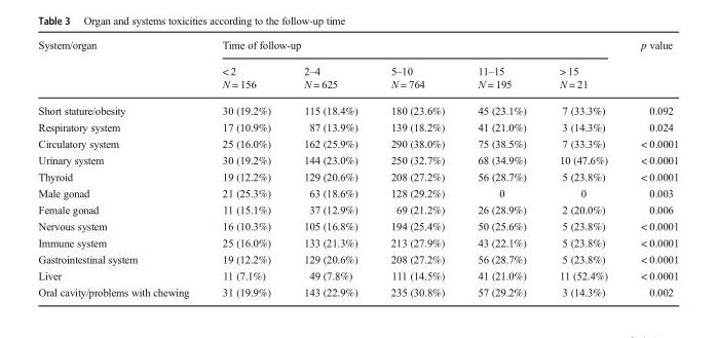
<table><thead><tr><td rowspan="2">System/organ</td><td colspan="5">Time of follow-up</td><td rowspan="2">p value</td></tr><tr><td>&lt; 2 N = 156</td><td>2–4 N = 625</td><td>5–10 N = 764</td><td>11–15 N = 195</td><td>&gt; 15 N = 21</td></tr></thead><tbody><tr><td>Short stature/obesity</td><td>30 (19.2%)</td><td>115 (18.4%)</td><td>180 (23.6%)</td><td>45 (23.1%)</td><td>7 (33.3%)</td><td>0.092</td></tr><tr><td>Respiratory system</td><td>17 (10.9%)</td><td>87 (13.9%)</td><td>139 (18.2%)</td><td>41 (21.0%)</td><td>3 (14.3%)</td><td>0.024</td></tr><tr><td>Circulatory system</td><td>25 (16.0%)</td><td>162 (25.9%)</td><td>290 (38.0%)</td><td>75 (38.5%)</td><td>7 (33.3%)</td><td>&lt; 0.0001</td></tr><tr><td>Urinary system</td><td>30 (19.2%)</td><td>144 (23.0%)</td><td>250 (32.7%)</td><td>68 (34.9%)</td><td>10 (47.6%)</td><td>&lt; 0.0001</td></tr><tr><td>Thyroid</td><td>19 (12.2%)</td><td>129 (20.6%)</td><td>208 (27.2%)</td><td>56 (28.7%)</td><td>5 (23.8%)</td><td>&lt; 0.0001</td></tr><tr><td>Male gonad</td><td>21 (25.3%)</td><td>63 (18.6%)</td><td>128 (29.2%)</td><td>0</td><td>0</td><td>0.003</td></tr><tr><td>Female gonad</td><td>11 (15.1%)</td><td>37 (12.9%)</td><td>69 (21.2%)</td><td>26 (28.9%)</td><td>2 (20.0%)</td><td>0.006</td></tr><tr><td>Nervous system</td><td>16 (10.3%)</td><td>105 (16.8%)</td><td>194 (25.4%)</td><td>50 (25.6%)</td><td>5 (23.8%)</td><td>&lt; 0.0001</td></tr><tr><td>Immune system</td><td>25 (16.0%)</td><td>133 (21.3%)</td><td>213 (27.9%)</td><td>43 (22.1%)</td><td>5 (23.8%)</td><td>&lt; 0.0001</td></tr><tr><td>Gastrointestinal system</td><td>19 (12.2%)</td><td>129 (20.6%)</td><td>208 (27.2%)</td><td>56 (28.7%)</td><td>5 (23.8%)</td><td>&lt; 0.0001</td></tr><tr><td>Liver</td><td>11 (7.1%)</td><td>49 (7.8%)</td><td>111 (14.5%)</td><td>41 (21.0%)</td><td>11 (52.4%)</td><td>&lt; 0.0001</td></tr><tr><td>Oral cavity/problems with chewing</td><td>31 (19.9%)</td><td>143 (22.9%)</td><td>235 (30.8%)</td><td>57 (29.2%)</td><td>3 (14.3%)</td><td>0.002</td></tr></tbody></table>